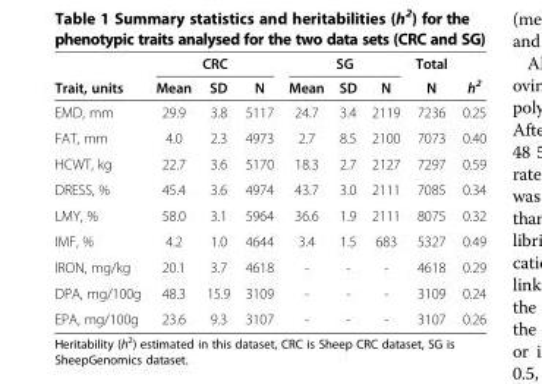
<table><thead><tr><td rowspan="2">Trait, units</td><td colspan="3">CRC</td><td colspan="3">SG</td><td rowspan="2">Total N</td><td rowspan="2">h<sup>2</sup></td></tr><tr><td>Mean</td><td>SD</td><td>N</td><td>Mean</td><td>SD</td><td>N</td></tr></thead><tbody><tr><td>EMD, mm</td><td>29.9</td><td>3.8</td><td>5117</td><td>24.7</td><td>3.4</td><td>2119</td><td>7236</td><td>0.25</td></tr><tr><td>FAT, mm</td><td>4.0</td><td>2.3</td><td>4973</td><td>2.7</td><td>8.5</td><td>2100</td><td>7073</td><td>0.40</td></tr><tr><td>HCWT, kg</td><td>22.7</td><td>3.6</td><td>5170</td><td>18.3</td><td>2.7</td><td>2127</td><td>7297</td><td>0.59</td></tr><tr><td>DRESS, %</td><td>45.4</td><td>3.6</td><td>4974</td><td>43.7</td><td>3.0</td><td>2111</td><td>7085</td><td>0.34</td></tr><tr><td>LMY, %</td><td>58.0</td><td>3.1</td><td>5964</td><td>36.6</td><td>1.9</td><td>2111</td><td>8075</td><td>0.32</td></tr><tr><td>IMF, %</td><td>4.2</td><td>1.0</td><td>4644</td><td>3.4</td><td>1.5</td><td>683</td><td>5327</td><td>0.49</td></tr><tr><td>IRON, mg/kg</td><td>20.1</td><td>3.7</td><td>4618</td><td>-</td><td>-</td><td>-</td><td>4618</td><td>0.29</td></tr><tr><td>DPA, mg/100g</td><td>48.3</td><td>15.9</td><td>3109</td><td>-</td><td>-</td><td>-</td><td>3109</td><td>0.24</td></tr><tr><td>EPA, mg/100g</td><td>23.6</td><td>9.3</td><td>3107</td><td>-</td><td>-</td><td>-</td><td>3107</td><td>0.26</td></tr></tbody></table>